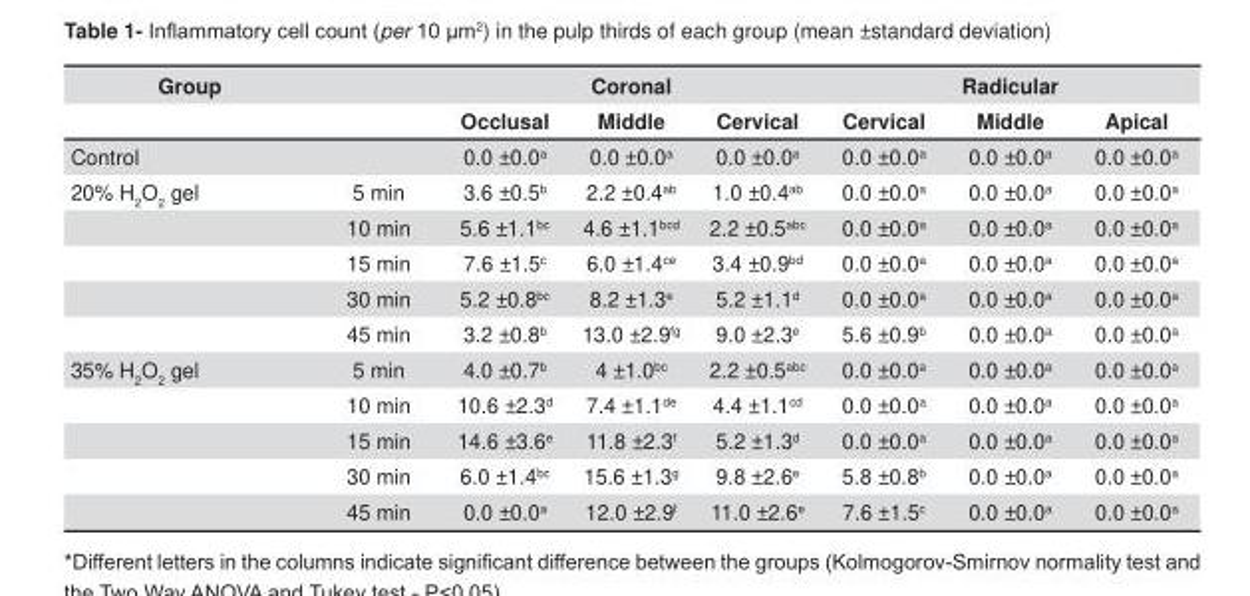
<table><thead><tr><td rowspan="2">Group</td><td rowspan="2"></td><td colspan="3">Coronal</td><td colspan="3">Radicular</td></tr><tr><td>Occlusal</td><td>Middle</td><td>Cervical</td><td>Cervical</td><td>Middle</td><td>Apical</td></tr></thead><tbody><tr><td>Control</td><td></td><td>0.0 ±0.0a</td><td>0.0 ±0.0a</td><td>0.0 ±0.0a</td><td>0.0 ±0.0a</td><td>0.0 ±0.0a</td><td>0.0 ±0.0a</td></tr><tr><td rowspan="5">20% H2O2 gel</td><td>5 min</td><td>3.6 ±0.5b</td><td>2.2 ±0.4ab</td><td>1.0 ±0.4ab</td><td>0.0 ±0.0a</td><td>0.0 ±0.0a</td><td>0.0 ±0.0a</td></tr><tr><td>10 min</td><td>5.6 ±1.1bc</td><td>4.6 ±1.1bcd</td><td>2.2 ±0.5abc</td><td>0.0 ±0.0a</td><td>0.0 ±0.0a</td><td>0.0 ±0.0a</td></tr><tr><td>15 min</td><td>7.6 ±1.5c</td><td>6.0 ±1.4ce</td><td>3.4 ±0.9bd</td><td>0.0 ±0.0a</td><td>0.0 ±0.0a</td><td>0.0 ±0.0a</td></tr><tr><td>30 min</td><td>5.2 ±0.8bc</td><td>8.2 ±1.3e</td><td>5.2 ±1.1d</td><td>0.0 ±0.0a</td><td>0.0 ±0.0a</td><td>0.0 ±0.0a</td></tr><tr><td>45 min</td><td>3.2 ±0.8b</td><td>13.0 ±2.9fg</td><td>9.0 ±2.3e</td><td>5.6 ±0.9b</td><td>0.0 ±0.0a</td><td>0.0 ±0.0a</td></tr><tr><td rowspan="5">35% H2O2 gel</td><td>5 min</td><td>4.0 ±0.7b</td><td>4 ±1.0bc</td><td>2.2 ±0.5abc</td><td>0.0 ±0.0a</td><td>0.0 ±0.0a</td><td>0.0 ±0.0a</td></tr><tr><td>10 min</td><td>10.6 ±2.3d</td><td>7.4 ±1.1de</td><td>4.4 ±1.1cd</td><td>0.0 ±0.0a</td><td>0.0 ±0.0a</td><td>0.0 ±0.0a</td></tr><tr><td>15 min</td><td>14.6 ±3.6e</td><td>11.8 ±2.3f</td><td>5.2 ±1.3d</td><td>0.0 ±0.0a</td><td>0.0 ±0.0a</td><td>0.0 ±0.0a</td></tr><tr><td>30 min</td><td>6.0 ±1.4bc</td><td>15.6 ±1.3g</td><td>9.8 ±2.6e</td><td>5.8 ±0.8b</td><td>0.0 ±0.0a</td><td>0.0 ±0.0a</td></tr><tr><td>45 min</td><td>0.0 ±0.0a</td><td>12.0 ±2.9f</td><td>11.0 ±2.6e</td><td>7.6 ±1.5c</td><td>0.0 ±0.0a</td><td>0.0 ±0.0a</td></tr></tbody></table>